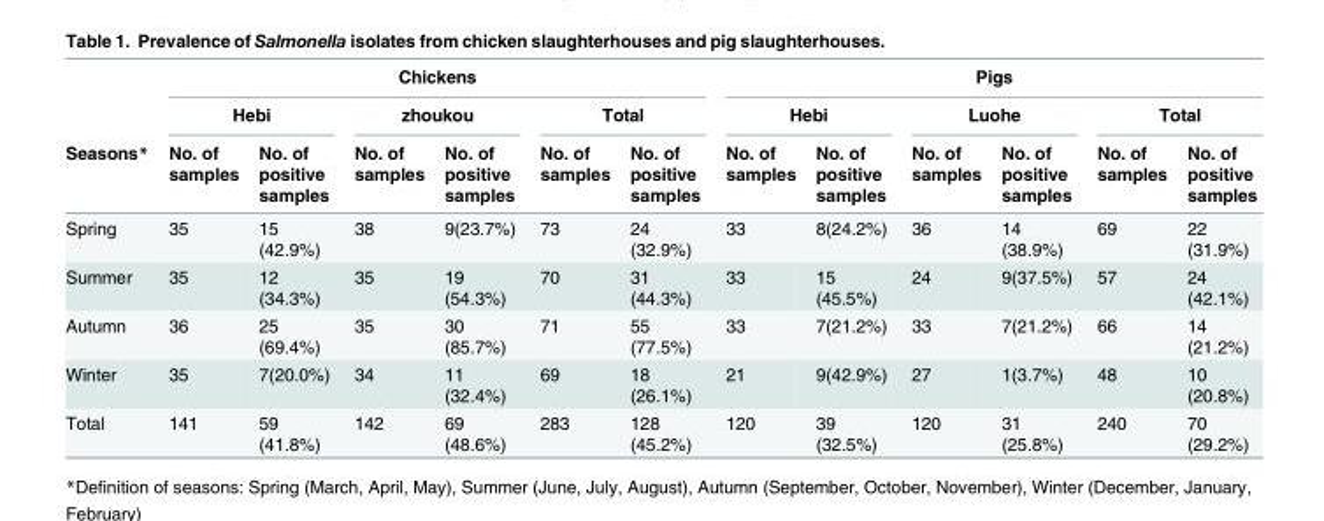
<table><thead><tr><td rowspan="3">Seasons*</td><td colspan="6">Chickens</td><td colspan="6">Pigs</td></tr><tr><td colspan="2">Hebi</td><td colspan="2">zhoukou</td><td colspan="2">Total</td><td colspan="2">Hebi</td><td colspan="2">Luohe</td><td colspan="2">Total</td></tr><tr><td>No. of samples</td><td>No. of positive samples</td><td>No. of samples</td><td>No. of positive samples</td><td>No. of samples</td><td>No. of positive samples</td><td>No. of samples</td><td>No. of positive samples</td><td>No. of samples</td><td>No. of positive samples</td><td>No. of samples</td><td>No. of positive samples</td></tr></thead><tbody><tr><td>Spring</td><td>35</td><td>15 (42.9%)</td><td>38</td><td>9(23.7%)</td><td>73</td><td>24 (32.9%)</td><td>33</td><td>8(24.2%)</td><td>36</td><td>14 (38.9%)</td><td>69</td><td>22 (31.9%)</td></tr><tr><td>Summer</td><td>35</td><td>12 (34.3%)</td><td>35</td><td>19 (54.3%)</td><td>70</td><td>31 (44.3%)</td><td>33</td><td>15 (45.5%)</td><td>24</td><td>9(37.5%)</td><td>57</td><td>24 (42.1%)</td></tr><tr><td>Autumn</td><td>36</td><td>25 (69.4%)</td><td>35</td><td>30 (85.7%)</td><td>71</td><td>55 (77.5%)</td><td>33</td><td>7(21.2%)</td><td>33</td><td>7(21.2%)</td><td>66</td><td>14 (21.2%)</td></tr><tr><td>Winter</td><td>35</td><td>7(20.0%)</td><td>34</td><td>11 (32.4%)</td><td>69</td><td>18 (26.1%)</td><td>21</td><td>9(42.9%)</td><td>27</td><td>1(3.7%)</td><td>48</td><td>10 (20.8%)</td></tr><tr><td>Total</td><td>141</td><td>59 (41.8%)</td><td>142</td><td>69 (48.6%)</td><td>283</td><td>128 (45.2%)</td><td>120</td><td>39 (32.5%)</td><td>120</td><td>31 (25.8%)</td><td>240</td><td>70 (29.2%)</td></tr></tbody></table>